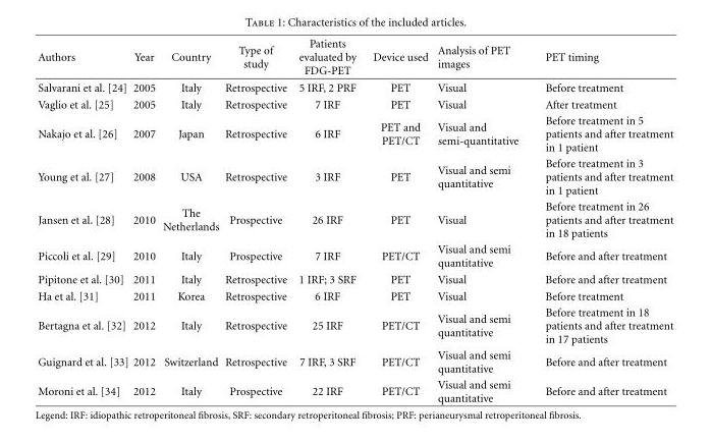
<table><thead><tr><td>Authors</td><td>Year</td><td>Country</td><td>Type of study</td><td>Patients evaluated by FDG-PET</td><td>Device used</td><td>Analysis of PET images</td><td>PET timing</td></tr></thead><tbody><tr><td>Salvarani et al. [24]</td><td>2005</td><td>Italy</td><td>Retrospective</td><td>5 IRF, 2 PRF</td><td>PET</td><td>Visual</td><td>Before treatment</td></tr><tr><td>Vaglio et al. [25]</td><td>2005</td><td>Italy</td><td>Retrospective</td><td>7 IRF</td><td>PET</td><td>Visual</td><td>After treatment</td></tr><tr><td>Nakajo et al. [26]</td><td>2007</td><td>Japan</td><td>Retrospective</td><td>6 IRF</td><td>PET and PET/CT</td><td>Visual and semi-quantitative</td><td>Before treatment in 5 patients and after treatment in 1 patient</td></tr><tr><td>Young et al. [27]</td><td>2008</td><td>USA</td><td>Retrospective</td><td>3 IRF</td><td>PET</td><td>Visual and semi quantitative</td><td>Before treatment in 3 patients and after treatment in 1 patient</td></tr><tr><td>Jansen et al. [28]</td><td>2010</td><td>The Netherlands</td><td>Prospective</td><td>26 IRF</td><td>PET</td><td>Visual</td><td>Before treatment in 26 patients and after treatment in 18 patients</td></tr><tr><td>Piccoli et al. [29]</td><td>2010</td><td>Italy</td><td>Prospective</td><td>7 IRF</td><td>PET/CT</td><td>Visual and semi quantitative</td><td>Before and after treatment</td></tr><tr><td>Pipitone et al. [30]</td><td>2011</td><td>Italy</td><td>Retrospective</td><td>1 IRF; 3 SRF</td><td>PET</td><td>Visual</td><td>Before and after treatment</td></tr><tr><td>Ha et al. [31]</td><td>2011</td><td>Korea</td><td>Retrospective</td><td>6 IRF</td><td>PET</td><td>Visual</td><td>Before treatment</td></tr><tr><td>Bertagna et al. [32]</td><td>2012</td><td>Italy</td><td>Retrospective</td><td>25 IRF</td><td>PET/CT</td><td>Visual and semi quantitative</td><td>Before treatment in 18 patients and after treatment in 17 patients</td></tr><tr><td>Guignard et al. [33]</td><td>2012</td><td>Switzerland</td><td>Retrospective</td><td>7 IRF, 3 SRF</td><td>PET/CT</td><td>Visual and semi quantitative</td><td>Before and after treatment</td></tr><tr><td>Moroni et al. [34]</td><td>2012</td><td>Italy</td><td>Prospective</td><td>22 IRF</td><td>PET/CT</td><td>Visual and semi quantitative</td><td>Before and after treatment</td></tr></tbody></table>